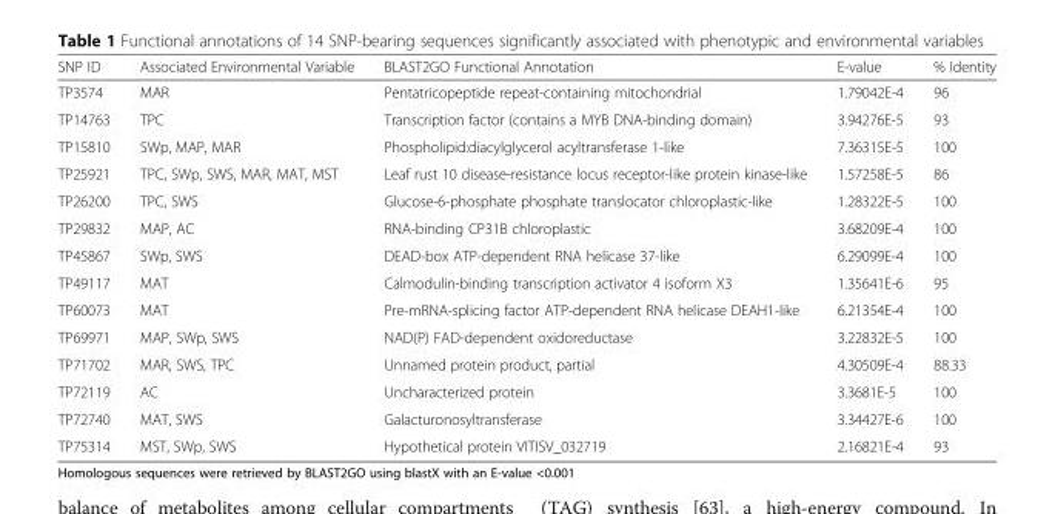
<table><thead><tr><td>SNP ID</td><td>Associated Environmental Variable</td><td>BLAST2GO Functional Annotation</td><td>E-value</td><td>% Identity</td></tr></thead><tbody><tr><td>TP3574</td><td>MAR</td><td>Pentatricopeptide repeat-containing mitochondrial</td><td>1.79042E-4</td><td>96</td></tr><tr><td>TP14763</td><td>TPC</td><td>Transcription factor (contains a MYB DNA-binding domain)</td><td>3.94276E-5</td><td>93</td></tr><tr><td>TP15810</td><td>SWp, MAP, MAR</td><td>Phospholipid:diacylglycerol acyltransferase 1-like</td><td>7.36315E-5</td><td>100</td></tr><tr><td>TP25921</td><td>TPC, SWp, SWS, MAR, MAT, MST</td><td>Leaf rust 10 disease-resistance locus receptor-like protein kinase-like</td><td>1.57258E-5</td><td>86</td></tr><tr><td>TP26200</td><td>TPC, SWS</td><td>Glucose-6-phosphate phosphate translocator chloroplastic-like</td><td>1.28322E-5</td><td>100</td></tr><tr><td>TP29832</td><td>MAP, AC</td><td>RNA-binding CP31B chloroplastic</td><td>3.68209E-4</td><td>100</td></tr><tr><td>TP45867</td><td>SWp, SWS</td><td>DEAD-box ATP-dependent RNA helicase 37-like</td><td>6.29099E-4</td><td>100</td></tr><tr><td>TP49117</td><td>MAT</td><td>Calmodulin-binding transcription activator 4 isoform X3</td><td>1.35641E-6</td><td>95</td></tr><tr><td>TP60073</td><td>MAT</td><td>Pre-mRNA-splicing factor ATP-dependent RNA helicase DEAH1-like</td><td>6.21354E-4</td><td>100</td></tr><tr><td>TP69971</td><td>MAP, SWp, SWS</td><td>NAD(P) FAD-dependent oxidoreductase</td><td>3.22832E-5</td><td>100</td></tr><tr><td>TP71702</td><td>MAR, SWS, TPC</td><td>Unnamed protein product, partial</td><td>4.30509E-4</td><td>88.33</td></tr><tr><td>TP72119</td><td>AC</td><td>Uncharacterized protein</td><td>3.3681E-5</td><td>100</td></tr><tr><td>TP72740</td><td>MAT, SWS</td><td>Galacturonosyltransferase</td><td>3.34427E-6</td><td>100</td></tr><tr><td>TP75314</td><td>MST, SWp, SWS</td><td>Hypothetical protein VITISV_032719</td><td>2.16821E-4</td><td>93</td></tr></tbody></table>